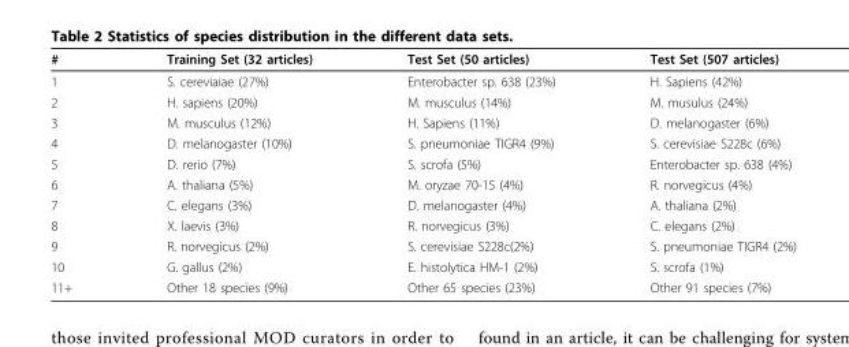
<table><thead><tr><td>#</td><td>Training Set (32 articles)</td><td>Test Set (50 articles)</td><td>Test Set (507 articles)</td></tr></thead><tbody><tr><td>1</td><td>S. cereviaiae (27%)</td><td>Enterobacter sp. 638 (23%)</td><td>H. Sapiens (42%)</td></tr><tr><td>2</td><td>H. sapiens (20%)</td><td>M. musculus (14%)</td><td>M. musulus (24%)</td></tr><tr><td>3</td><td>M. musculus (12%)</td><td>H. Sapiens (11%)</td><td>D. melanogaster (6%)</td></tr><tr><td>4</td><td>D. melanogaster (10%)</td><td>S. pneumoniae TIGR4 (9%)</td><td>S. cerevisiae S228c (6%)</td></tr><tr><td>5</td><td>D. rerio (7%)</td><td>S. scrofa (5%)</td><td>Enterobacter sp. 638 (4%)</td></tr><tr><td>6</td><td>A. thaliana (5%)</td><td>M. oryzae 70-15 (4%)</td><td>R. norvegicus (4%)</td></tr><tr><td>7</td><td>C. elegans (3%)</td><td>D. melanogaster (4%)</td><td>A. thaliana (2%)</td></tr><tr><td>8</td><td>X. laevis (3%)</td><td>R. norvegicus (3%)</td><td>C. elegans (2%)</td></tr><tr><td>9</td><td>R. norvegicus (2%)</td><td>S. cerevisiae S228c(2%)</td><td>S. pneumoniae TIGR4 (2%)</td></tr><tr><td>10</td><td>G. gallus (2%)</td><td>E. histolytica HM-1 (2%)</td><td>S. scrofa (1%)</td></tr><tr><td>11+</td><td>Other 18 species (9%)</td><td>Other 65 species (23%)</td><td>Other 91 species (7%)</td></tr></tbody></table>